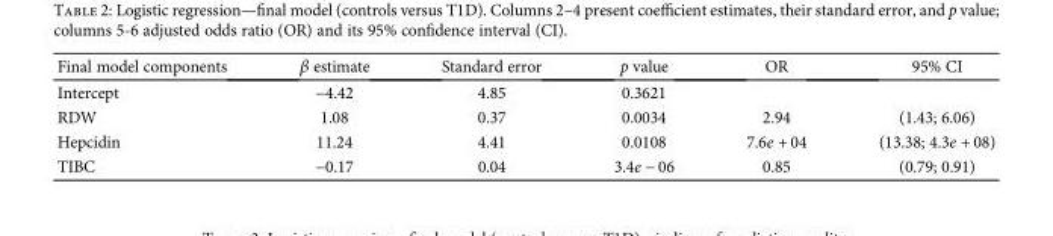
<table><thead><tr><td>Final model components</td><td>β estimate</td><td>Standard error</td><td>p value</td><td>OR</td><td>95% CI</td></tr></thead><tbody><tr><td>Intercept</td><td>−4.42</td><td>4.85</td><td>0.3621</td><td></td><td></td></tr><tr><td>RDW</td><td>1.08</td><td>0.37</td><td>0.0034</td><td>2.94</td><td>(1.43; 6.06)</td></tr><tr><td>Hepcidin</td><td>11.24</td><td>4.41</td><td>0.0108</td><td>7.6e + 04</td><td>(13.38; 4.3e + 08)</td></tr><tr><td>TIBC</td><td>−0.17</td><td>0.04</td><td>3.4e − 06</td><td>0.85</td><td>(0.79; 0.91)</td></tr></tbody></table>